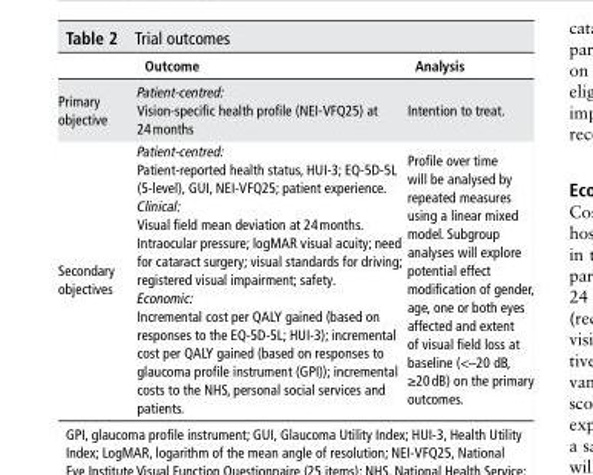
<table><thead><tr><td></td><td>outcome</td><td>Analysis</td></tr></thead><tbody><tr><td>Primary objective</td><td>Patient-centred: Vision-specific health profile (NEI-VFQ25) at 24 months</td><td>Intention to treat.</td></tr><tr><td>Secondary objectives</td><td>Patient-centred: Patient-reported health status, HUI-3; EQ-5D-5L (5-level), GUI, NEI-VFQ25; patient experience. Clinical: Visual field mean deviation at 24 months. Intraocular pressure; logMAR visual acuity; need for cataract surgery; visual standards for driving; registered visual impairment; safety. Economic: Incremental cost per QALY gained (based on responses to the EQ-5D-5L; HUI-3); incremental cost per QALY gained (based on responses to glaucoma profile instrument (GPI)); incremental costs to the NHS, personal social services and patients.</td><td>Profile over time will be analysed by repeated measures using a linear mixed model. Subgroup analyses will explore potential effect modification of gender, age, one or both eyes affected and extent of visual field loss at baseline (&lt;–20 dB, ≥20 dB) on the primary outcomes.</td></tr></tbody></table>